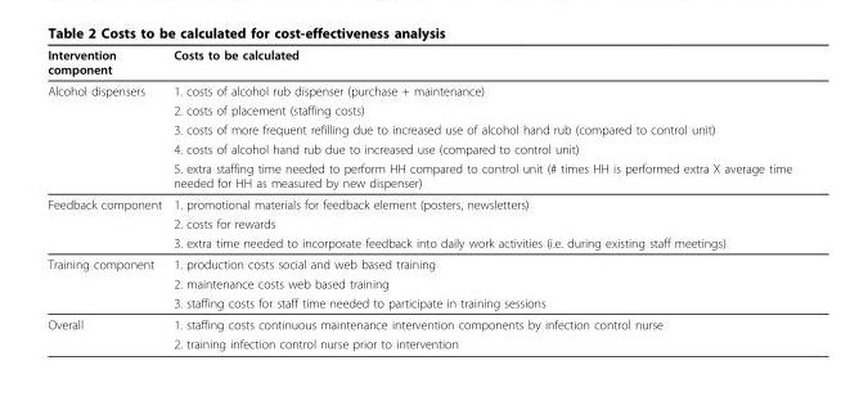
<table><thead><tr><td>Intervention component</td><td>Costs to be calculated</td></tr></thead><tbody><tr><td rowspan="5">Alcohol dispensers</td><td>1. costs of alcohol rub dispenser (purchase + maintenance)</td></tr><tr><td>2. costs of placement (staffing costs)</td></tr><tr><td>3. costs of more frequent refilling due to increased use of alcohol hand rub (compared to control unit)</td></tr><tr><td>4. costs of alcohol hand rub due to increased use (compared to control unit)</td></tr><tr><td>5. extra staffing time needed to perform HH compared to control unit (# times HH is performed extra X average time needed for HH as measured by new dispenser)</td></tr><tr><td rowspan="3">Feedback component</td><td>1. promotional materials for feedback element (posters, newsletters)</td></tr><tr><td>2. costs for rewards</td></tr><tr><td>3. extra time needed to incorporate feedback into daily work activities (i.e. during existing staff meetings)</td></tr><tr><td rowspan="3">Training component</td><td>1. production costs social and web based training</td></tr><tr><td>2. maintenance costs web based training</td></tr><tr><td>3. staffing costs for staff time needed to participate in training sessions</td></tr><tr><td rowspan="2">Overall</td><td>1. staffing costs continuous maintenance intervention components by infection control nurse</td></tr><tr><td>2. training infection control nurse prior to intervention</td></tr></tbody></table>